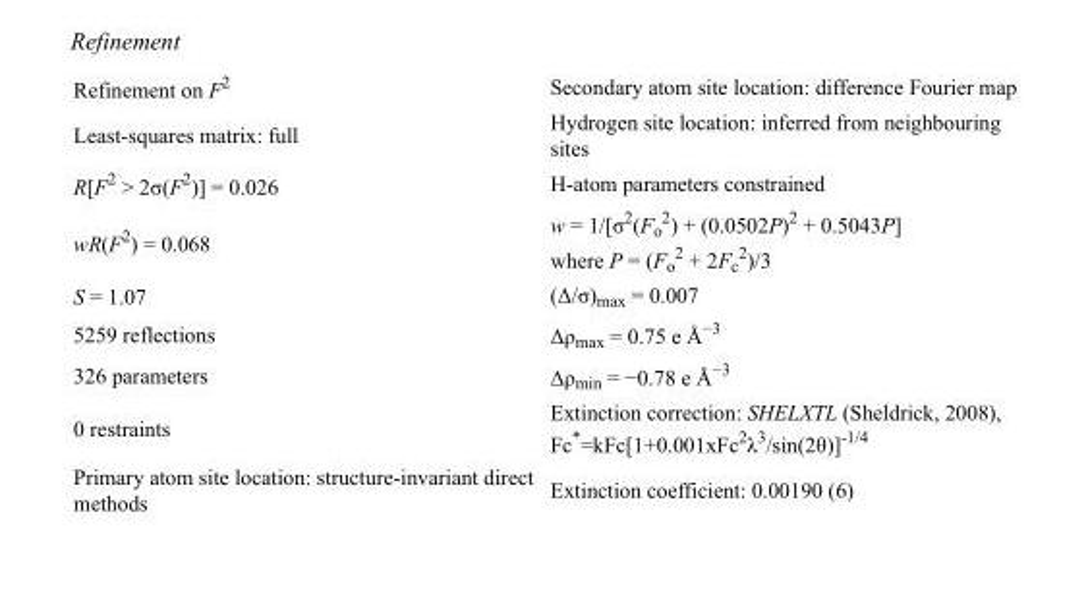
<table><tbody><tr><td>Refinement on F<sup>2</sup></td><td>Secondary atom site location: difference Fourier map</td></tr><tr><td>Least-squares matrix: full</td><td>Hydrogen site location: inferred from neighbouring sites</td></tr><tr><td>R[F<sup>2</sup> &gt; 2σ(F<sup>2</sup>)] = 0.026</td><td>H-atom parameters constrained</td></tr><tr><td>wR(F<sup>2</sup>) = 0.068</td><td>w = 1/[σ<sup>2</sup>(F<sub>o</sub> <sup>2</sup>) + (0.0502P)<sup>2</sup> + 0.5043P] where P = (F<sub>o</sub> <sup>2</sup> + 2F<sub>c</sub> <sup>2</sup>)/3</td></tr><tr><td>S = 1.07</td><td>(Δ/σ)<sub>max</sub> = 0.007</td></tr><tr><td>5259 reflections</td><td>Δρ<sub>max</sub> = 0.75 e Å<sup>−3</sup></td></tr><tr><td>326 parameters</td><td>Δρ<sub>min</sub> = −0.78 e Å<sup>−3</sup></td></tr><tr><td>0 restraints</td><td>Extinction correction: SHELXTL (Sheldrick, 2008), Fc*=kFc[1+0.001xFc<sup>2</sup>λ<sup>3</sup>/sin(2θ)]<sup>-1/4</sup></td></tr><tr><td>Primary atom site location: structure-invariant direct methods</td><td>Extinction coefficient: 0.00190 (6)</td></tr></tbody></table>